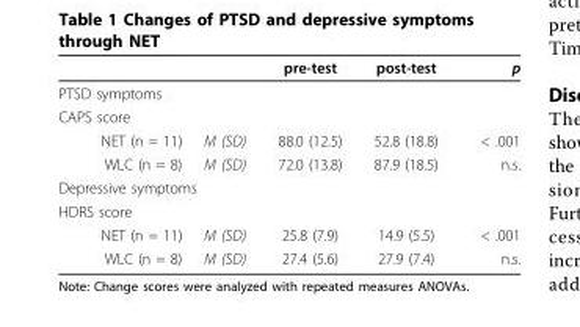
<table><thead><tr><td></td><td></td><td>pre-test</td><td>post-test</td><td>p</td></tr></thead><tbody><tr><td colspan="5">PTSD symptoms</td></tr><tr><td colspan="5">CAPS score</td></tr><tr><td>NET (n = 11)</td><td>M (SD)</td><td>88.0 (12.5)</td><td>52.8 (18.8)</td><td>&lt; .001</td></tr><tr><td>WLC (n = 8)</td><td>M (SD)</td><td>72.0 (13.8)</td><td>87.9 (18.5)</td><td>n.s.</td></tr><tr><td colspan="5">Depressive symptoms</td></tr><tr><td colspan="5">HDRS score</td></tr><tr><td>NET (n = 11)</td><td>M (SD)</td><td>25.8 (7.9)</td><td>14.9 (5.5)</td><td>&lt; .001</td></tr><tr><td>WLC (n = 8)</td><td>M (SD)</td><td>27.4 (5.6)</td><td>27.9 (7.4)</td><td>n.s.</td></tr></tbody></table>